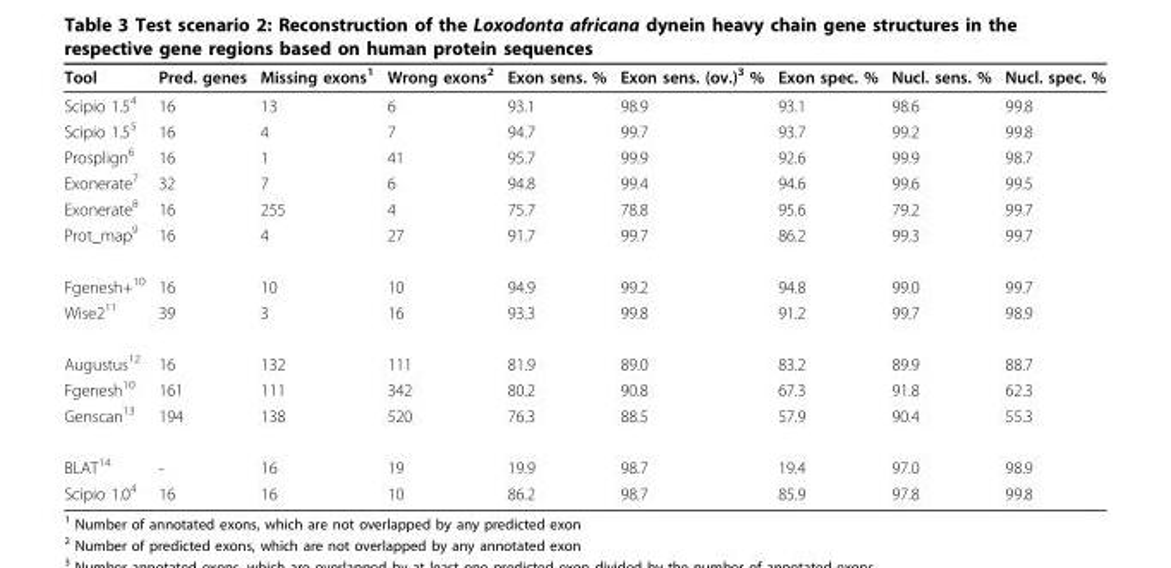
<table><thead><tr><td>Tool</td><td>Pred. genes</td><td>Missing exons<sup>1</sup></td><td>Wrong exons<sup>2</sup></td><td>Exon sens. %</td><td>Exon sens. (ov.)<sup>3</sup> %</td><td>Exon spec. %</td><td>Nucl. sens. %</td><td>Nucl. spec. %</td></tr></thead><tbody><tr><td>Scipio 1.5<sup>4</sup></td><td>16</td><td>13</td><td>6</td><td>93.1</td><td>98.9</td><td>93.1</td><td>98.6</td><td>99.8</td></tr><tr><td>Scipio 1.5<sup>5</sup></td><td>16</td><td>4</td><td>7</td><td>94.7</td><td>99.7</td><td>93.7</td><td>99.2</td><td>99.8</td></tr><tr><td>Prosplign<sup>6</sup></td><td>16</td><td>1</td><td>41</td><td>95.7</td><td>99.9</td><td>92.6</td><td>99.9</td><td>98.7</td></tr><tr><td>Exonerate<sup>7</sup></td><td>32</td><td>7</td><td>6</td><td>94.8</td><td>99.4</td><td>94.6</td><td>99.6</td><td>99.5</td></tr><tr><td>Exonerate<sup>8</sup></td><td>16</td><td>255</td><td>4</td><td>75.7</td><td>78.8</td><td>95.6</td><td>79.2</td><td>99.7</td></tr><tr><td>Prot_map<sup>9</sup></td><td>16</td><td>4</td><td>27</td><td>91.7</td><td>99.7</td><td>86.2</td><td>99.3</td><td>99.7</td></tr><tr><td>Fgenesh+<sup>10</sup></td><td>16</td><td>10</td><td>10</td><td>94.9</td><td>99.2</td><td>94.8</td><td>99.0</td><td>99.7</td></tr><tr><td>Wise2<sup>11</sup></td><td>39</td><td>3</td><td>16</td><td>93.3</td><td>99.8</td><td>91.2</td><td>99.7</td><td>98.9</td></tr><tr><td>Augustus<sup>12</sup></td><td>16</td><td>132</td><td>111</td><td>81.9</td><td>89.0</td><td>83.2</td><td>89.9</td><td>88.7</td></tr><tr><td>Fgenesh<sup>10</sup></td><td>161</td><td>111</td><td>342</td><td>80.2</td><td>90.8</td><td>67.3</td><td>91.8</td><td>62.3</td></tr><tr><td>Genscan<sup>13</sup></td><td>194</td><td>138</td><td>520</td><td>76.3</td><td>88.5</td><td>57.9</td><td>90.4</td><td>55.3</td></tr><tr><td>BLAT<sup>14</sup></td><td>-</td><td>16</td><td>19</td><td>19.9</td><td>98.7</td><td>19.4</td><td>97.0</td><td>98.9</td></tr><tr><td>Scipio 1.0<sup>4</sup></td><td>16</td><td>16</td><td>10</td><td>86.2</td><td>98.7</td><td>85.9</td><td>97.8</td><td>99.8</td></tr></tbody></table>